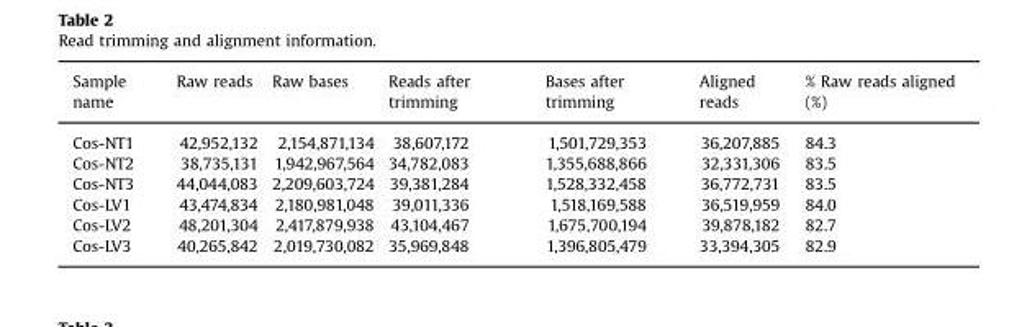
<table><thead><tr><td>Sample name</td><td>Raw reads</td><td>Raw bases</td><td>Reads after trimming</td><td>Bases after trimming</td><td>Aligned reads</td><td>% Raw reads aligned (%)</td></tr></thead><tbody><tr><td>Cos-NT1</td><td>42,952,132</td><td>2,154,871,134</td><td>38,607,172</td><td>1,501,729,353</td><td>36,207,885</td><td>84.3</td></tr><tr><td>Cos-NT2</td><td>38,735,131</td><td>1,942,967,564</td><td>34,782,083</td><td>1,355,688,866</td><td>32,331,306</td><td>83.5</td></tr><tr><td>Cos-NT3</td><td>44,044,083</td><td>2,209,603,724</td><td>39,381,284</td><td>1,528,332,458</td><td>36,772,731</td><td>83.5</td></tr><tr><td>Cos-LV1</td><td>43,474,834</td><td>2,180,981,048</td><td>39,011,336</td><td>1,518,169,588</td><td>36,519,959</td><td>84.0</td></tr><tr><td>Cos-LV2</td><td>48,201,304</td><td>2,417,879,938</td><td>43,104,467</td><td>1,675,700,194</td><td>39,878,182</td><td>82.7</td></tr><tr><td>Cos-LV3</td><td>40,265,842</td><td>2,019,730,082</td><td>35,969,848</td><td>1,396,805,479</td><td>33,394,305</td><td>82.9</td></tr></tbody></table>